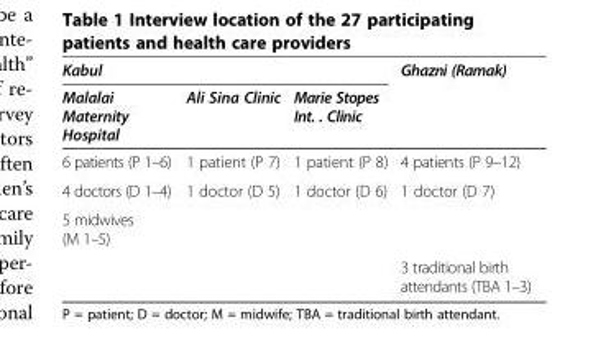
<table><thead><tr><td colspan="3">Kabul</td><td rowspan="2">Ghazni (Ramak)</td></tr><tr><td>Malalai Maternity Hospital</td><td>Ali Sina Clinic</td><td>Marie Stopes Int. . Clinic</td></tr></thead><tbody><tr><td>6 patients (P 1–6)</td><td>1 patient (P 7)</td><td>1 patient (P 8)</td><td>4 patients (P 9–12)</td></tr><tr><td>4 doctors (D 1–4)</td><td>1 doctor (D 5)</td><td>1 doctor (D 6)</td><td>1 doctor (D 7)</td></tr><tr><td colspan="4">5 midwives (M 1–5)</td></tr><tr><td></td><td></td><td></td><td>3 traditional birth attendants (TBA 1–3)</td></tr></tbody></table>